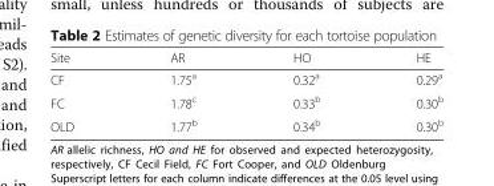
<table><thead><tr><td>Site</td><td>AR</td><td>HO</td><td>HE</td></tr></thead><tbody><tr><td>CF</td><td>1.75<sup>a</sup></td><td>0.32<sup>a</sup></td><td>0.29<sup>a</sup></td></tr><tr><td>FC</td><td>1.78<sup>c</sup></td><td>0.33<sup>b</sup></td><td>0.30<sup>b</sup></td></tr><tr><td>OLD</td><td>1.77<sup>b</sup></td><td>0.34<sup>b</sup></td><td>0.30<sup>b</sup></td></tr></tbody></table>